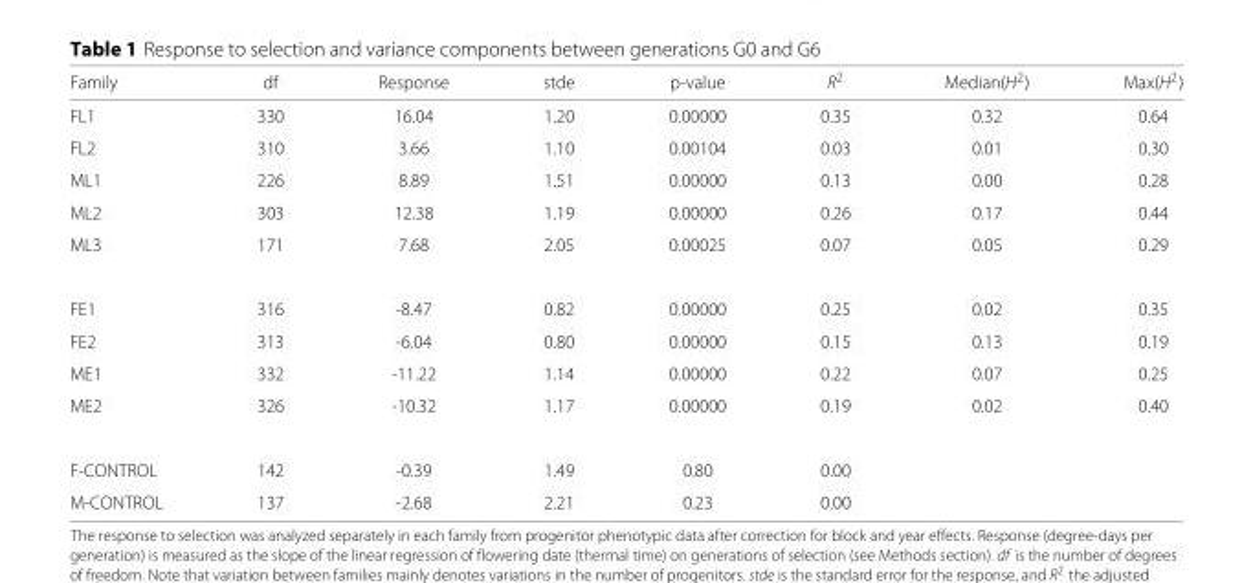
<table><thead><tr><td>Family</td><td>df</td><td>Response</td><td>stde</td><td>p-value</td><td>R<sup>2</sup></td><td>Median(H<sup>2</sup>)</td><td>Max(H<sup>2</sup>)</td></tr></thead><tbody><tr><td>FL1</td><td>330</td><td>16.04</td><td>1.20</td><td>0.00000</td><td>0.35</td><td>0.32</td><td>0.64</td></tr><tr><td>FL2</td><td>310</td><td>3.66</td><td>1.10</td><td>0.00104</td><td>0.03</td><td>0.01</td><td>0.30</td></tr><tr><td>ML1</td><td>226</td><td>8.89</td><td>1.51</td><td>0.00000</td><td>0.13</td><td>0.00</td><td>0.28</td></tr><tr><td>ML2</td><td>303</td><td>12.38</td><td>1.19</td><td>0.00000</td><td>0.26</td><td>0.17</td><td>0.44</td></tr><tr><td>ML3</td><td>171</td><td>7.68</td><td>2.05</td><td>0.00025</td><td>0.07</td><td>0.05</td><td>0.29</td></tr><tr><td>FE1</td><td>316</td><td>-8.47</td><td>0.82</td><td>0.00000</td><td>0.25</td><td>0.02</td><td>0.35</td></tr><tr><td>FE2</td><td>313</td><td>-6.04</td><td>0.80</td><td>0.00000</td><td>0.15</td><td>0.13</td><td>0.19</td></tr><tr><td>ME1</td><td>332</td><td>-11.22</td><td>1.14</td><td>0.00000</td><td>0.22</td><td>0.07</td><td>0.25</td></tr><tr><td>ME2</td><td>326</td><td>-10.32</td><td>1.17</td><td>0.00000</td><td>0.19</td><td>0.02</td><td>0.40</td></tr><tr><td>F-CONTROL</td><td>142</td><td>-0.39</td><td>1.49</td><td>0.80</td><td>0.00</td><td></td><td></td></tr><tr><td>M-CONTROL</td><td>137</td><td>-2.68</td><td>2.21</td><td>0.23</td><td>0.00</td><td></td><td></td></tr></tbody></table>